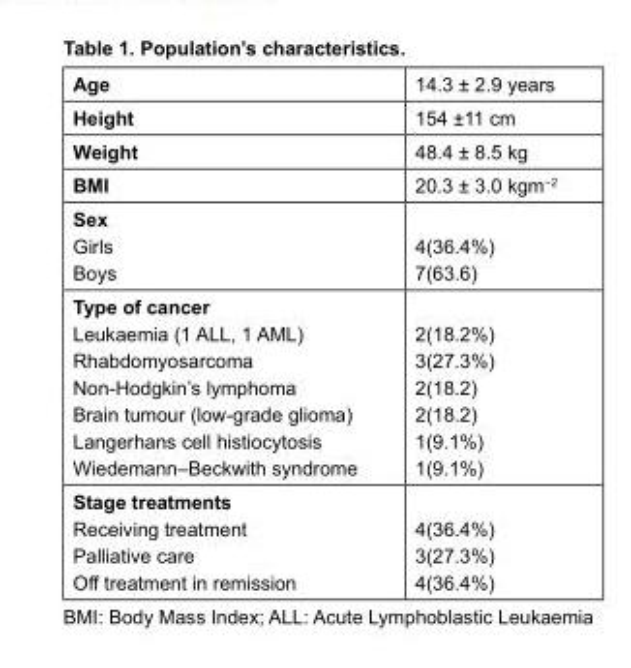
<table><tbody><tr><td>Age</td><td>14.3 ± 2.9 years</td></tr><tr><td>Height</td><td>154 ±11 cm</td></tr><tr><td>Weight</td><td>48.4 ± 8.5 kg</td></tr><tr><td>BMI</td><td>20.3 ± 3.0 kgm<sup>−2</sup></td></tr><tr><td>Sex Girls Boys</td><td>4(36.4%) 7(63.6)</td></tr><tr><td>Type of cancer Leukaemia (1 ALL, 1 AML) Rhabdomyosarcoma Non-Hodgkin’s lymphoma Brain tumour (low-grade glioma) Langerhans cell histiocytosis Wiedemann–Beckwith syndrome</td><td>2(18.2%) 3(27.3%) 2(18.2) 2(18.2) 1(9.1%) 1(9.1%)</td></tr><tr><td>Stage treatments Receiving treatment Palliative care Off treatment in remission</td><td>4(36.4%) 3(27.3%) 4(36.4%)</td></tr></tbody></table>